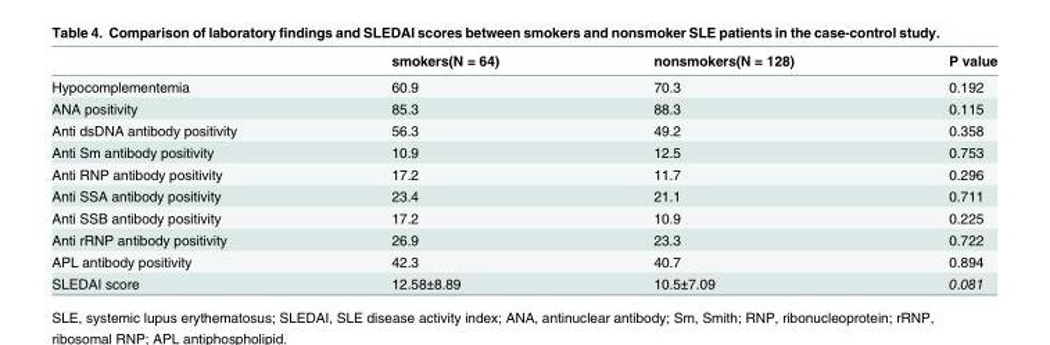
<table><thead><tr><td></td><td>smokers(N = 64)</td><td>nonsmokers(N = 128)</td><td>P value</td></tr></thead><tbody><tr><td>Hypocomplementemia</td><td>60.9</td><td>70.3</td><td>0.192</td></tr><tr><td>ANA positivity</td><td>85.3</td><td>88.3</td><td>0.115</td></tr><tr><td>Anti dsDNA antibody positivity</td><td>56.3</td><td>49.2</td><td>0.358</td></tr><tr><td>Anti Sm antibody positivity</td><td>10.9</td><td>12.5</td><td>0.753</td></tr><tr><td>Anti RNP antibody positivity</td><td>17.2</td><td>11.7</td><td>0.296</td></tr><tr><td>Anti SSA antibody positivity</td><td>23.4</td><td>21.1</td><td>0.711</td></tr><tr><td>Anti SSB antibody positivity</td><td>17.2</td><td>10.9</td><td>0.225</td></tr><tr><td>Anti rRNP antibody positivity</td><td>26.9</td><td>23.3</td><td>0.722</td></tr><tr><td>APL antibody positivity</td><td>42.3</td><td>40.7</td><td>0.894</td></tr><tr><td>SLEDAI score</td><td>12.58±8.89</td><td>10.5±7.09</td><td>0.081</td></tr></tbody></table>